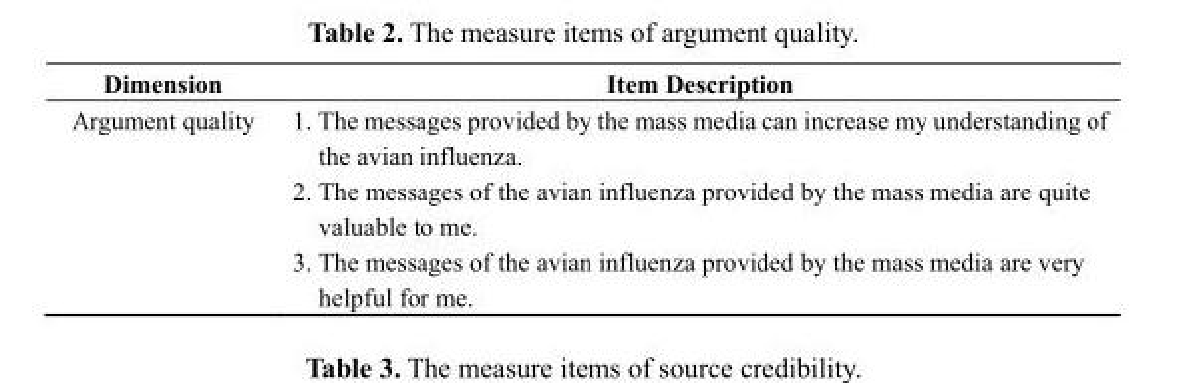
<table><thead><tr><td rowspan="2">Dimension Argument quality</td><td colspan="2">Item Description</td></tr><tr><td>1.</td><td>The messages provided by the mass media can increase my understanding of the avian influenza.</td></tr></thead><tbody><tr><td></td><td>2.</td><td>The messages of the avian influenza provided by the mass media are quite valuable to me.</td></tr><tr><td></td><td>3.</td><td>The messages of the avian influenza provided by the mass media are very helpful for me.</td></tr></tbody></table>